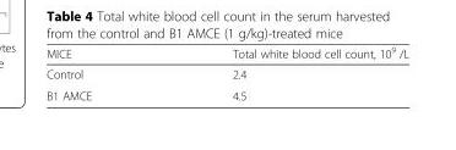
<table><thead><tr><td>MICE</td><td>Total white blood cell count, 10<sup>9</sup> /L</td></tr></thead><tbody><tr><td>Control</td><td>2.4</td></tr><tr><td>B1 AMCE</td><td>4.5</td></tr></tbody></table>